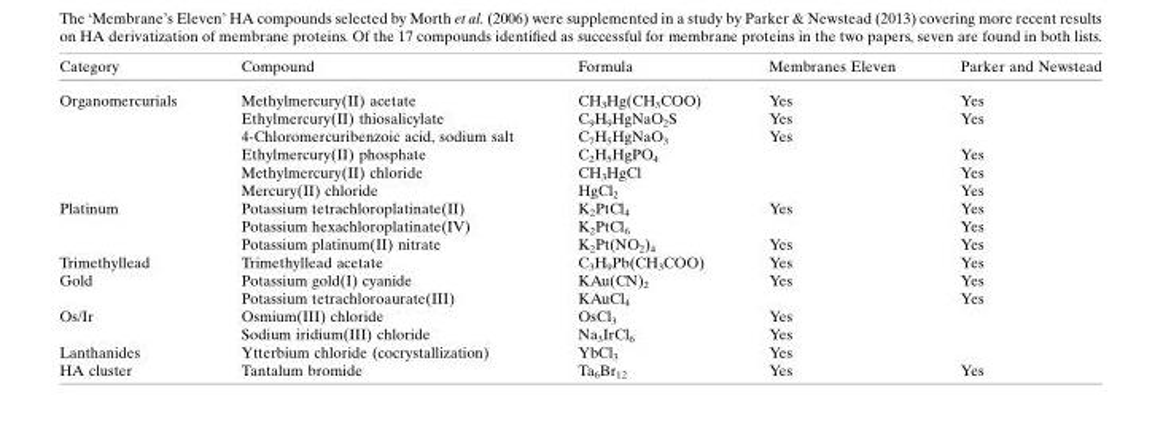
<table><thead><tr><td>Category</td><td>Compound</td><td>Formula</td><td>Membranes Eleven</td><td>Parker and Newstead</td></tr></thead><tbody><tr><td rowspan="6">Organomercurials</td><td>Methylmercury(II) acetate</td><td>CH<sub>3</sub>Hg(CH<sub>3</sub>COO)</td><td>Yes</td><td>Yes</td></tr><tr><td>Ethylmercury(II) thiosalicylate</td><td>C<sub>9</sub>H<sub>9</sub>HgNaO<sub>2</sub>S</td><td>Yes</td><td>Yes</td></tr><tr><td>4-Chloromercuribenzoic acid, sodium salt</td><td>C<sub>7</sub>H<sub>5</sub>HgNaO<sub>3</sub></td><td>Yes</td><td></td></tr><tr><td>Ethylmercury(II) phosphate</td><td>C<sub>2</sub>H<sub>5</sub>HgPO<sub>4</sub></td><td></td><td>Yes</td></tr><tr><td>Methylmercury(II) chloride</td><td>CH<sub>3</sub>HgCl</td><td></td><td>Yes</td></tr><tr><td>Mercury(II) chloride</td><td>HgCl<sub>2</sub></td><td></td><td>Yes</td></tr><tr><td rowspan="3">Platinum</td><td>Potassium tetrachloroplatinate(II)</td><td>K<sub>2</sub>PtCl<sub>4</sub></td><td>Yes</td><td>Yes</td></tr><tr><td>Potassium hexachloroplatinate(IV)</td><td>K<sub>2</sub>PtCl<sub>6</sub></td><td></td><td>Yes</td></tr><tr><td>Potassium platinum(II) nitrate</td><td>K<sub>2</sub>Pt(NO<sub>2</sub>)<sub>4</sub></td><td>Yes</td><td>Yes</td></tr><tr><td>Trimethyllead</td><td>Trimethyllead acetate</td><td>C<sub>3</sub>H<sub>9</sub>Pb(CH<sub>3</sub>COO)</td><td>Yes</td><td>Yes</td></tr><tr><td rowspan="2">Gold</td><td>Potassium gold(I) cyanide</td><td>KAu(CN)<sub>2</sub></td><td>Yes</td><td>Yes</td></tr><tr><td>Potassium tetrachloroaurate(III)</td><td>KAuCl<sub>4</sub></td><td></td><td>Yes</td></tr><tr><td rowspan="2">Os/Ir</td><td>Osmium(III) chloride</td><td>OsCl<sub>3</sub></td><td>Yes</td><td></td></tr><tr><td>Sodium iridium(III) chloride</td><td>Na<sub>3</sub>IrCl<sub>6</sub></td><td>Yes</td><td></td></tr><tr><td>Lanthanides</td><td>Ytterbium chloride (cocrystallization)</td><td>YbCl<sub>3</sub></td><td>Yes</td><td></td></tr><tr><td>HA cluster</td><td>Tantalum bromide</td><td>Ta<sub>6</sub>Br<sub>12</sub></td><td>Yes</td><td>Yes</td></tr></tbody></table>